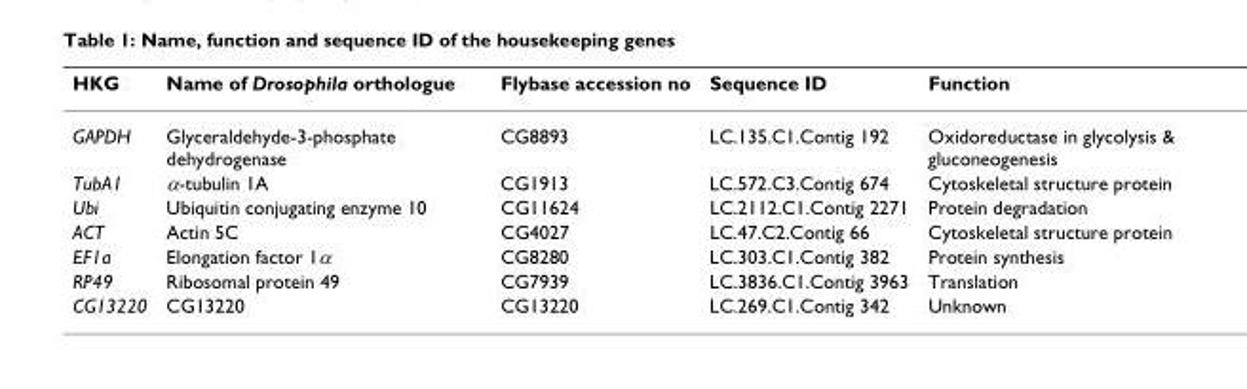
<table><thead><tr><td>HKG</td><td>Name of Drosophila orthologue</td><td>Flybase accession no</td><td>Sequence ID</td><td>Function</td></tr></thead><tbody><tr><td>GAPDH</td><td>Glyceraldehyde-3-phosphate dehydrogenase</td><td>CG8893</td><td>LC.135.C1.Contig 192</td><td>Oxidoreductase in glycolysis &amp; gluconeogenesis</td></tr><tr><td>TubA1</td><td>α-tubulin 1A</td><td>CG1913</td><td>LC.572.C3.Contig 674</td><td>Cytoskeletal structure protein</td></tr><tr><td>Ubi</td><td>Ubiquitin conjugating enzyme 10</td><td>CG11624</td><td>LC.2112.C1.Contig 2271</td><td>Protein degradation</td></tr><tr><td>ACT</td><td>Actin 5C</td><td>CG4027</td><td>LC.47.C2.Contig 66</td><td>Cytoskeletal structure protein</td></tr><tr><td>EF1a</td><td>Elongation factor 1α</td><td>CG8280</td><td>LC.303.C1.Contig 382</td><td>Protein synthesis</td></tr><tr><td>RP49</td><td>Ribosomal protein 49</td><td>CG7939</td><td>LC.3836.C1.Contig 3963</td><td>Translation</td></tr><tr><td>CG13220</td><td>CG13220</td><td>CG13220</td><td>LC.269.C1.Contig 342</td><td>Unknown</td></tr></tbody></table>